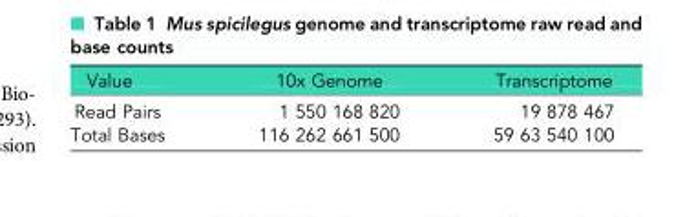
<table><thead><tr><td>Value</td><td>10x Genome</td><td>Transcriptome</td></tr></thead><tbody><tr><td>Read Pairs</td><td>1 550 168 820</td><td>19 878 467</td></tr><tr><td>Total Bases</td><td>116 262 661 500</td><td>59 63 540 100</td></tr></tbody></table>